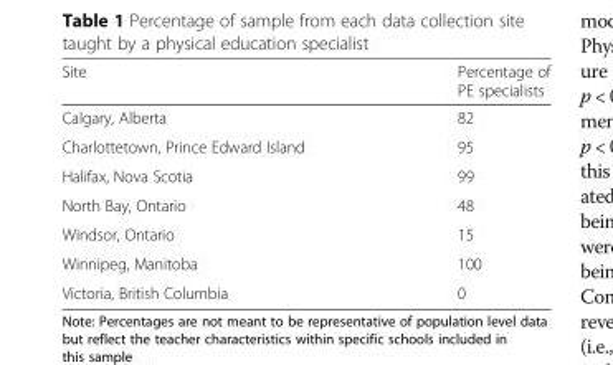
<table><thead><tr><td>Site</td><td>Percentage of PE specialists</td></tr></thead><tbody><tr><td>Calgary, Alberta</td><td>82</td></tr><tr><td>Charlottetown, Prince Edward Island</td><td>95</td></tr><tr><td>Halifax, Nova Scotia</td><td>99</td></tr><tr><td>North Bay, Ontario</td><td>48</td></tr><tr><td>Windsor, Ontario</td><td>15</td></tr><tr><td>Winnipeg, Manitoba</td><td>100</td></tr><tr><td>Victoria, British Columbia</td><td>0</td></tr></tbody></table>